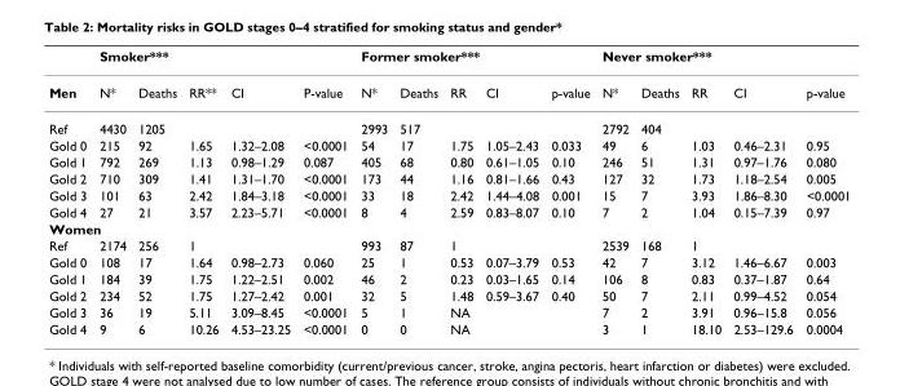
<table><thead><tr><td rowspan="2">Men</td><td colspan="5">Smoker***</td><td colspan="5">Former smoker***</td><td colspan="5">Never smoker***</td></tr><tr><td>N*</td><td>Deaths</td><td>RR**</td><td>CI</td><td>P-value</td><td>N*</td><td>Deaths</td><td>RR</td><td>CI</td><td>p-value</td><td>N*</td><td>Deaths</td><td>RR</td><td>CI</td><td>p-value</td></tr></thead><tbody><tr><td>Ref</td><td>4430</td><td>1205</td><td></td><td></td><td></td><td>2993</td><td>517</td><td></td><td></td><td></td><td>2792</td><td>404</td><td></td><td></td><td></td></tr><tr><td>Gold 0</td><td>215</td><td>92</td><td>1.65</td><td>1.32–2.08</td><td>&lt;0.0001</td><td>54</td><td>17</td><td>1.75</td><td>1.05–2.43</td><td>0.033</td><td>49</td><td>6</td><td>1.03</td><td>0.46–2.31</td><td>0.95</td></tr><tr><td>Gold 1</td><td>792</td><td>269</td><td>1.13</td><td>0.98–1.29</td><td>0.087</td><td>405</td><td>68</td><td>0.80</td><td>0.61–1.05</td><td>0.10</td><td>246</td><td>51</td><td>1.31</td><td>0.97–1.76</td><td>0.080</td></tr><tr><td>Gold 2</td><td>710</td><td>309</td><td>1.41</td><td>1.31–1.70</td><td>&lt;0.0001</td><td>173</td><td>44</td><td>1.16</td><td>0.81–1.66</td><td>0.43</td><td>127</td><td>32</td><td>1.73</td><td>1.18–2.54</td><td>0.005</td></tr><tr><td>Gold 3</td><td>101</td><td>63</td><td>2.42</td><td>1.84–3.18</td><td>&lt;0.0001</td><td>33</td><td>18</td><td>2.42</td><td>1.44–4.08</td><td>0.001</td><td>15</td><td>7</td><td>3.93</td><td>1.86–8.30</td><td>&lt;0.0001</td></tr><tr><td>Gold 4</td><td>27</td><td>21</td><td>3.57</td><td>2.23–5.71</td><td>&lt;0.0001</td><td>8</td><td>4</td><td>2.59</td><td>0.83–8.07</td><td>0.10</td><td>7</td><td>2</td><td>1.04</td><td>0.15–7.39</td><td>0.97</td></tr><tr><td colspan="16">Women</td></tr><tr><td>Ref</td><td>2174</td><td>256</td><td>1</td><td></td><td></td><td>993</td><td>87</td><td>1</td><td></td><td></td><td>2539</td><td>168</td><td>1</td><td></td><td></td></tr><tr><td>Gold 0</td><td>108</td><td>17</td><td>1.64</td><td>0.98–2.73</td><td>0.060</td><td>25</td><td>1</td><td>0.53</td><td>0.07–3.79</td><td>0.53</td><td>42</td><td>7</td><td>3.12</td><td>1.46–6.67</td><td>0.003</td></tr><tr><td>Gold 1</td><td>184</td><td>39</td><td>1.75</td><td>1.22–2.51</td><td>0.002</td><td>46</td><td>2</td><td>0.23</td><td>0.03–1.65</td><td>0.14</td><td>106</td><td>8</td><td>0.83</td><td>0.37–1.87</td><td>0.64</td></tr><tr><td>Gold 2</td><td>234</td><td>52</td><td>1.75</td><td>1.27–2.42</td><td>0.001</td><td>32</td><td>5</td><td>1.48</td><td>0.59–3.67</td><td>0.40</td><td>50</td><td>7</td><td>2.11</td><td>0.99–4.52</td><td>0.054</td></tr><tr><td>Gold 3</td><td>36</td><td>19</td><td>5.11</td><td>3.09–8.45</td><td>&lt;0.0001</td><td>5</td><td>1</td><td>NA</td><td></td><td></td><td>7</td><td>2</td><td>3.91</td><td>0.96–15.8</td><td>0.056</td></tr><tr><td>Gold 4</td><td>9</td><td>6</td><td>10.26</td><td>4.53–23.25</td><td>&lt;0.0001</td><td>0</td><td>0</td><td>NA</td><td></td><td></td><td>3</td><td>1</td><td>18.10</td><td>2.53–129.6</td><td>0.0004</td></tr></tbody></table>